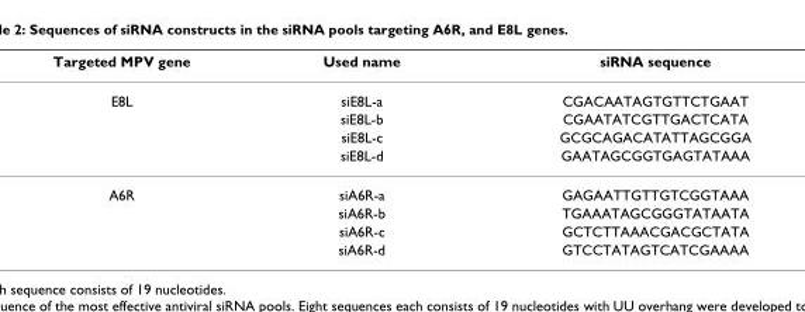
<table><thead><tr><td>Targeted MPV gene</td><td>Used name</td><td>siRNA sequence</td></tr></thead><tbody><tr><td rowspan="4">E8L</td><td>siE8L-a</td><td>CGACAATAGTGTTCTGAAT</td></tr><tr><td>siE8L-b</td><td>CGAATATCGTTGACTCATA</td></tr><tr><td>siE8L-c</td><td>GCGCAGACATATTAGCGGA</td></tr><tr><td>siE8L-d</td><td>GAATAGCGGTGAGTATAAA</td></tr><tr><td rowspan="4">A6R</td><td>siA6R-a</td><td>GAGAATTGTTGTCGGTAAA</td></tr><tr><td>siA6R-b</td><td>TGAAATAGCGGGTATAATA</td></tr><tr><td>siA6R-c</td><td>GCTCTTAAACGACGCTATA</td></tr><tr><td>siA6R-d</td><td>GTCCTATAGTCATCGAAAA</td></tr></tbody></table>